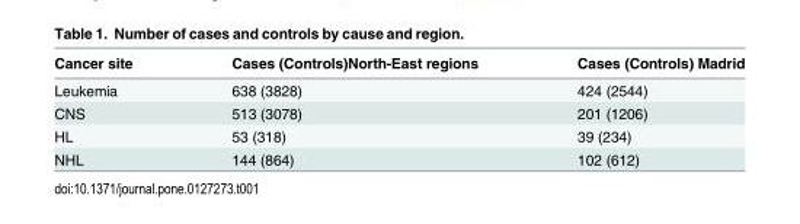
<table><thead><tr><td>Cancer site</td><td>Cases (Controls)North-East regions</td><td>Cases (Controls) Madrid</td></tr></thead><tbody><tr><td>Leukemia</td><td>638 (3828)</td><td>424 (2544)</td></tr><tr><td>CNS</td><td>513 (3078)</td><td>201 (1206)</td></tr><tr><td>HL</td><td>53 (318)</td><td>39 (234)</td></tr><tr><td>NHL</td><td>144 (864)</td><td>102 (612)</td></tr></tbody></table>